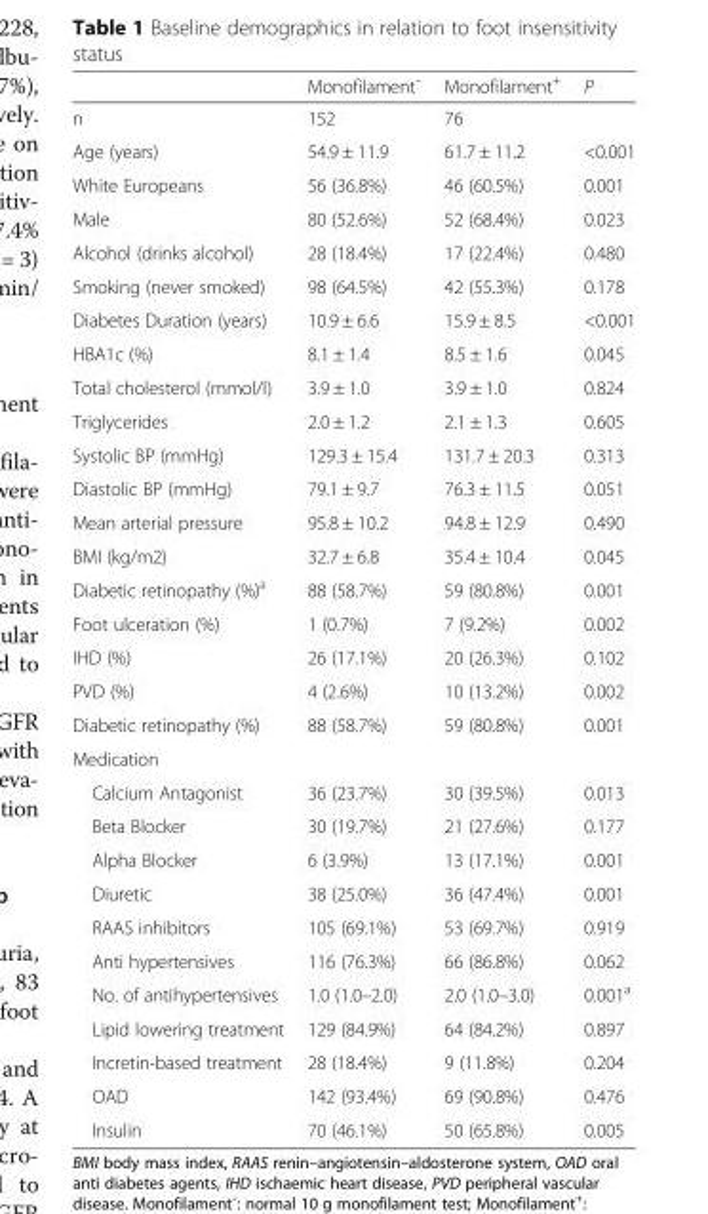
<table><thead><tr><td></td><td>Monofilament¯</td><td>Monofilament<sup>+</sup></td><td>P</td></tr></thead><tbody><tr><td>n</td><td>152</td><td>76</td><td></td></tr><tr><td>Age (years)</td><td>54.9 ± 11.9</td><td>61.7 ± 11.2</td><td>&lt;0.001</td></tr><tr><td>White Europeans</td><td>56 (36.8%)</td><td>46 (60.5%)</td><td>0.001</td></tr><tr><td>Male</td><td>80 (52.6%)</td><td>52 (68.4%)</td><td>0.023</td></tr><tr><td>Alcohol (drinks alcohol)</td><td>28 (18.4%)</td><td>17 (22.4%)</td><td>0.480</td></tr><tr><td>Smoking (never smoked)</td><td>98 (64.5%)</td><td>42 (55.3%)</td><td>0.178</td></tr><tr><td>Diabetes Duration (years)</td><td>10.9 ± 6.6</td><td>15.9 ± 8.5</td><td>&lt;0.001</td></tr><tr><td>HBA1c (%)</td><td>8.1 ± 1.4</td><td>8.5 ± 1.6</td><td>0.045</td></tr><tr><td>Total cholesterol (mmol/l)</td><td>3.9 ± 1.0</td><td>3.9 ± 1.0</td><td>0.824</td></tr><tr><td>Triglycerides</td><td>2.0 ± 1.2</td><td>2.1 ± 1.3</td><td>0.605</td></tr><tr><td>Systolic BP (mmHg)</td><td>129.3 ± 15.4</td><td>131.7 ± 20.3</td><td>0.313</td></tr><tr><td>Diastolic BP (mmHg)</td><td>79.1 ± 9.7</td><td>76.3 ± 11.5</td><td>0.051</td></tr><tr><td>Mean arterial pressure</td><td>95.8 ± 10.2</td><td>94.8 ± 12.9</td><td>0.490</td></tr><tr><td>BMI (kg/m2)</td><td>32.7 ± 6.8</td><td>35.4 ± 10.4</td><td>0.045</td></tr><tr><td>Diabetic retinopathy (%)<sup>a</sup></td><td>88 (58.7%)</td><td>59 (80.8%)</td><td>0.001</td></tr><tr><td>Foot ulceration (%)</td><td>1 (0.7%)</td><td>7 (9.2%)</td><td>0.002</td></tr><tr><td>IHD (%)</td><td>26 (17.1%)</td><td>20 (26.3%)</td><td>0.102</td></tr><tr><td>PVD (%)</td><td>4 (2.6%)</td><td>10 (13.2%)</td><td>0.002</td></tr><tr><td>Diabetic retinopathy (%)</td><td>88 (58.7%)</td><td>59 (80.8%)</td><td>0.001</td></tr><tr><td colspan="4">Medication</td></tr><tr><td>Calcium Antagonist</td><td>36 (23.7%)</td><td>30 (39.5%)</td><td>0.013</td></tr><tr><td>Beta Blocker</td><td>30 (19.7%)</td><td>21 (27.6%)</td><td>0.177</td></tr><tr><td>Alpha Blocker</td><td>6 (3.9%)</td><td>13 (17.1%)</td><td>0.001</td></tr><tr><td>Diuretic</td><td>38 (25.0%)</td><td>36 (47.4%)</td><td>0.001</td></tr><tr><td>RAAS inhibitors</td><td>105 (69.1%)</td><td>53 (69.7%)</td><td>0.919</td></tr><tr><td>Anti hypertensives</td><td>116 (76.3%)</td><td>66 (86.8%)</td><td>0.062</td></tr><tr><td>No. of antihypertensives</td><td>1.0 (1.0–2.0)</td><td>2.0 (1.0–3.0)</td><td>0.001<sup>a</sup></td></tr><tr><td>Lipid lowering treatment</td><td>129 (84.9%)</td><td>64 (84.2%)</td><td>0.897</td></tr><tr><td>Incretin-based treatment</td><td>28 (18.4%)</td><td>9 (11.8%)</td><td>0.204</td></tr><tr><td>OAD</td><td>142 (93.4%)</td><td>69 (90.8%)</td><td>0.476</td></tr><tr><td>Insulin</td><td>70 (46.1%)</td><td>50 (65.8%)</td><td>0.005</td></tr></tbody></table>